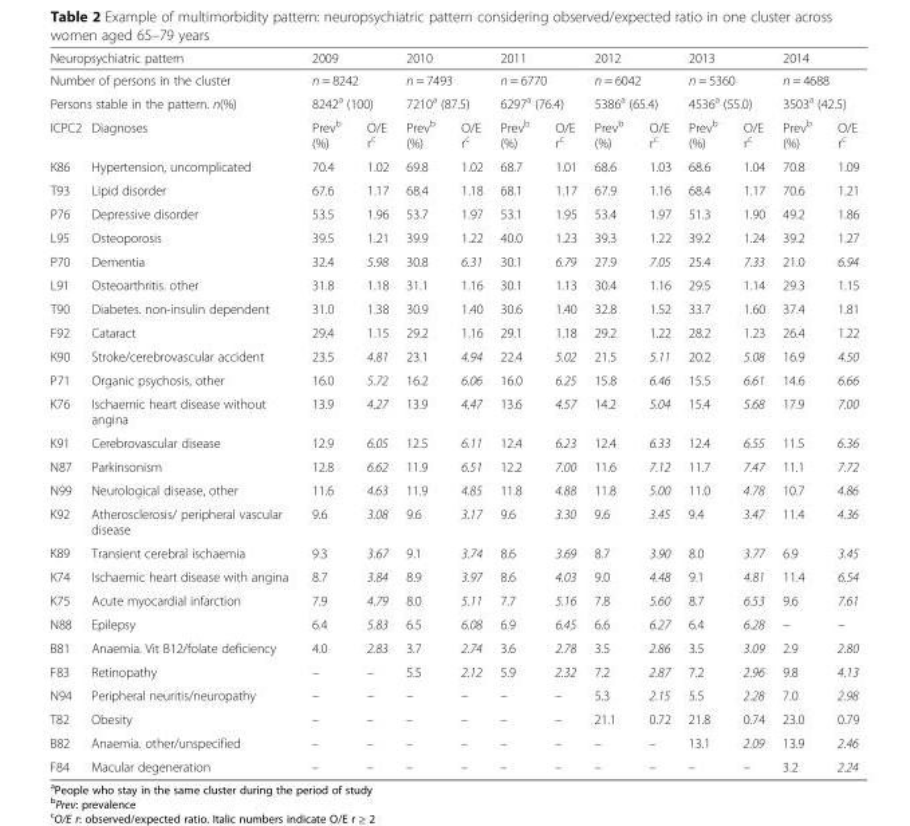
<table><thead><tr><td rowspan="3" colspan="2">Neuropsychiatric pattern Number of persons in the cluster Persons stable in the pattern. n(%)</td><td rowspan="3" colspan="2">2009 n = 8242 8242<sup>a</sup> (100)</td><td rowspan="3" colspan="2">2010 n = 7493 7210<sup>a</sup> (87.5)</td><td rowspan="3" colspan="2">2011 n = 6770 6297<sup>a</sup> (76.4)</td><td rowspan="3" colspan="2">2012 n = 6042 5386<sup>a</sup> (65.4)</td><td rowspan="3" colspan="2">2013 n = 5360 4536<sup>a</sup> (55.0)</td><td rowspan="3" colspan="2">2014 n = 4688 3503<sup>a</sup> (42.5)</td></tr><tr></tr><tr></tr><tr><td>ICPC2</td><td>Diagnoses</td><td>Prev<sup>b</sup> (%)</td><td>O/E r<sup>c</sup></td><td>Prev<sup>b</sup> (%)</td><td>O/E r<sup>c</sup></td><td>Prev<sup>b</sup> (%)</td><td>O/E r<sup>c</sup></td><td>Prev<sup>b</sup> (%)</td><td>O/E r<sup>c</sup></td><td>Prev<sup>b</sup> (%)</td><td>O/E r<sup>c</sup></td><td>Prev<sup>b</sup> (%)</td><td>O/E r<sup>c</sup></td></tr></thead><tbody><tr><td>K86</td><td>Hypertension, uncomplicated</td><td>70.4</td><td>1.02</td><td>69.8</td><td>1.02</td><td>68.7</td><td>1.01</td><td>68.6</td><td>1.03</td><td>68.6</td><td>1.04</td><td>70.8</td><td>1.09</td></tr><tr><td>T93</td><td>Lipid disorder</td><td>67.6</td><td>1.17</td><td>68.4</td><td>1.18</td><td>68.1</td><td>1.17</td><td>67.9</td><td>1.16</td><td>68.4</td><td>1.17</td><td>70.6</td><td>1.21</td></tr><tr><td>P76</td><td>Depressive disorder</td><td>53.5</td><td>1.96</td><td>53.7</td><td>1.97</td><td>53.1</td><td>1.95</td><td>53.4</td><td>1.97</td><td>51.3</td><td>1.90</td><td>49.2</td><td>1.86</td></tr><tr><td>L95</td><td>Osteoporosis</td><td>39.5</td><td>1.21</td><td>39.9</td><td>1.22</td><td>40.0</td><td>1.23</td><td>39.3</td><td>1.22</td><td>39.2</td><td>1.24</td><td>39.2</td><td>1.27</td></tr><tr><td>P70</td><td>Dementia</td><td>32.4</td><td>5.98</td><td>30.8</td><td>6.31</td><td>30.1</td><td>6.79</td><td>27.9</td><td>7.05</td><td>25.4</td><td>7.33</td><td>21.0</td><td>6.94</td></tr><tr><td>L91</td><td>Osteoarthritis. other</td><td>31.8</td><td>1.18</td><td>31.1</td><td>1.16</td><td>30.1</td><td>1.13</td><td>30.4</td><td>1.16</td><td>29.5</td><td>1.14</td><td>29.3</td><td>1.15</td></tr><tr><td>T90</td><td>Diabetes. non-insulin dependent</td><td>31.0</td><td>1.38</td><td>30.9</td><td>1.40</td><td>30.6</td><td>1.40</td><td>32.8</td><td>1.52</td><td>33.7</td><td>1.60</td><td>37.4</td><td>1.81</td></tr><tr><td>F92</td><td>Cataract</td><td>29.4</td><td>1.15</td><td>29.2</td><td>1.16</td><td>29.1</td><td>1.18</td><td>29.2</td><td>1.22</td><td>28.2</td><td>1.23</td><td>26.4</td><td>1.22</td></tr><tr><td>K90</td><td>Stroke/cerebrovascular accident</td><td>23.5</td><td>4.81</td><td>23.1</td><td>4.94</td><td>22.4</td><td>5.02</td><td>21.5</td><td>5.11</td><td>20.2</td><td>5.08</td><td>16.9</td><td>4.50</td></tr><tr><td>P71</td><td>Organic psychosis, other</td><td>16.0</td><td>5.72</td><td>16.2</td><td>6.06</td><td>16.0</td><td>6.25</td><td>15.8</td><td>6.46</td><td>15.5</td><td>6.61</td><td>14.6</td><td>6.66</td></tr><tr><td>K76</td><td>Ischaemic heart disease without angina</td><td>13.9</td><td>4.27</td><td>13.9</td><td>4.47</td><td>13.6</td><td>4.57</td><td>14.2</td><td>5.04</td><td>15.4</td><td>5.68</td><td>17.9</td><td>7.00</td></tr><tr><td>K91</td><td>Cerebrovascular disease</td><td>12.9</td><td>6.05</td><td>12.5</td><td>6.11</td><td>12.4</td><td>6.23</td><td>12.4</td><td>6.33</td><td>12.4</td><td>6.55</td><td>11.5</td><td>6.36</td></tr><tr><td>N87</td><td>Parkinsonism</td><td>12.8</td><td>6.62</td><td>11.9</td><td>6.51</td><td>12.2</td><td>7.00</td><td>11.6</td><td>7.12</td><td>11.7</td><td>7.47</td><td>11.1</td><td>7.72</td></tr><tr><td>N99</td><td>Neurological disease, other</td><td>11.6</td><td>4.63</td><td>11.9</td><td>4.85</td><td>11.8</td><td>4.88</td><td>11.8</td><td>5.00</td><td>11.0</td><td>4.78</td><td>10.7</td><td>4.86</td></tr><tr><td>K92</td><td>Atherosclerosis/ peripheral vascular disease</td><td>9.6</td><td>3.08</td><td>9.6</td><td>3.17</td><td>9.6</td><td>3.30</td><td>9.6</td><td>3.45</td><td>9.4</td><td>3.47</td><td>11.4</td><td>4.36</td></tr><tr><td>K89</td><td>Transient cerebral ischaemia</td><td>9.3</td><td>3.67</td><td>9.1</td><td>3.74</td><td>8.6</td><td>3.69</td><td>8.7</td><td>3.90</td><td>8.0</td><td>3.77</td><td>6.9</td><td>3.45</td></tr><tr><td>K74</td><td>Ischaemic heart disease with angina</td><td>8.7</td><td>3.84</td><td>8.9</td><td>3.97</td><td>8.6</td><td>4.03</td><td>9.0</td><td>4.48</td><td>9.1</td><td>4.81</td><td>11.4</td><td>6.54</td></tr><tr><td>K75</td><td>Acute myocardial infarction</td><td>7.9</td><td>4.79</td><td>8.0</td><td>5.11</td><td>7.7</td><td>5.16</td><td>7.8</td><td>5.60</td><td>8.7</td><td>6.53</td><td>9.6</td><td>7.61</td></tr><tr><td>N88</td><td>Epilepsy</td><td>6.4</td><td>5.83</td><td>6.5</td><td>6.08</td><td>6.9</td><td>6.45</td><td>6.6</td><td>6.27</td><td>6.4</td><td>6.28</td><td>–</td><td>–</td></tr><tr><td>B81</td><td>Anaemia. Vit B12/folate deficiency</td><td>4.0</td><td>2.83</td><td>3.7</td><td>2.74</td><td>3.6</td><td>2.78</td><td>3.5</td><td>2.86</td><td>3.5</td><td>3.09</td><td>2.9</td><td>2.80</td></tr><tr><td>F83</td><td>Retinopathy</td><td>–</td><td>–</td><td>5.5</td><td>2.12</td><td>5.9</td><td>2.32</td><td>7.2</td><td>2.87</td><td>7.2</td><td>2.96</td><td>9.8</td><td>4.13</td></tr><tr><td>N94</td><td>Peripheral neuritis/neuropathy</td><td>–</td><td>–</td><td>–</td><td>–</td><td>–</td><td>–</td><td>5.3</td><td>2.15</td><td>5.5</td><td>2.28</td><td>7.0</td><td>2.98</td></tr><tr><td>T82</td><td>Obesity</td><td>–</td><td>–</td><td>–</td><td>–</td><td>–</td><td>–</td><td>21.1</td><td>0.72</td><td>21.8</td><td>0.74</td><td>23.0</td><td>0.79</td></tr><tr><td>B82</td><td>Anaemia. other/unspecified</td><td>–</td><td>–</td><td>–</td><td>–</td><td>–</td><td>–</td><td>–</td><td>–</td><td>13.1</td><td>2.09</td><td>13.9</td><td>2.46</td></tr><tr><td>F84</td><td>Macular degeneration</td><td>–</td><td>–</td><td>–</td><td>–</td><td>–</td><td>–</td><td>–</td><td>–</td><td>–</td><td>–</td><td>3.2</td><td>2.24</td></tr></tbody></table>